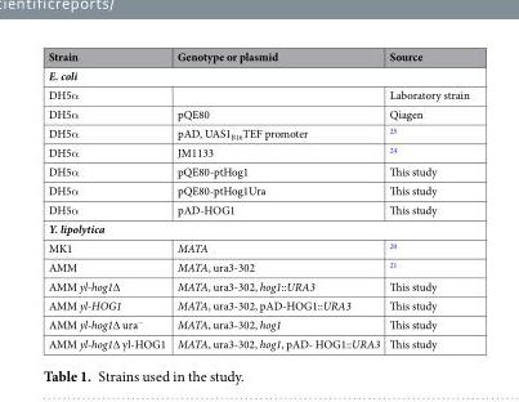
<table><thead><tr><td>Strain</td><td>Genotype or plasmid</td><td>Source</td></tr></thead><tbody><tr><td colspan="3">E. coli</td></tr><tr><td>DH5α</td><td></td><td>Laboratory strain</td></tr><tr><td>DH5α</td><td>pQE80</td><td>Qiagen</td></tr><tr><td>DH5α</td><td>pAD, UAS1<sub>B16</sub>TEF promoter</td><td><sup>25</sup></td></tr><tr><td>DH5α</td><td>JM1133</td><td><sup>24</sup></td></tr><tr><td>DH5α</td><td>pQE80-ptHog1</td><td>This study</td></tr><tr><td>DH5α</td><td>pQE80-ptHog1Ura</td><td>This study</td></tr><tr><td>DH5α</td><td>pAD-HOG1</td><td>This study</td></tr><tr><td colspan="3">Y. lipolytica</td></tr><tr><td>MK1</td><td>MATA</td><td><sup>20</sup></td></tr><tr><td>AMM</td><td>MATA, ura3-302</td><td><sup>21</sup></td></tr><tr><td>AMM yl-hog1∆</td><td>MATA, ura3-302, hog1::URA3</td><td>This study</td></tr><tr><td>AMM yl-HOG1</td><td>MATA, ura3-302, pAD-HOG1::URA3</td><td>This study</td></tr><tr><td>AMM yl-hog1∆ ura<sup>−</sup></td><td>MATA, ura3-302, hog1</td><td>This study</td></tr><tr><td>AMM yl-hog1∆ yl-HOG1</td><td>MATA, ura3-302, hog1, pAD- HOG1::URA3</td><td>This study</td></tr></tbody></table>